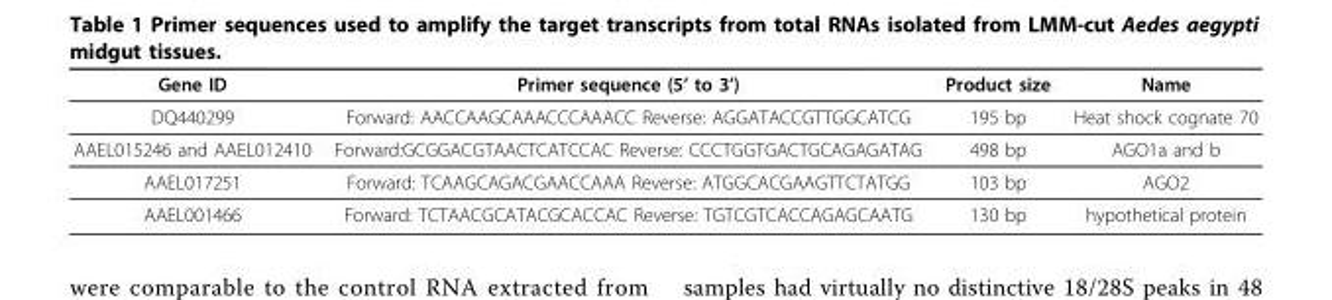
<table><thead><tr><td>Gene ID</td><td>Primer sequence (5’ to 3’)</td><td>Product size</td><td>Name</td></tr></thead><tbody><tr><td>DQ440299</td><td>Forward: AACCAAGCAAACCCAAACC Reverse: AGGATACCGTTGGCATCG</td><td>195 bp</td><td>Heat shock cognate 70</td></tr><tr><td>AAEL015246 and AAEL012410</td><td>Forward:GCGGACGTAACTCATCCAC Reverse: CCCTGGTGACTGCAGAGATAG</td><td>498 bp</td><td>AGO1a and b</td></tr><tr><td>AAEL017251</td><td>Forward: TCAAGCAGACGAACCAAA Reverse: ATGGCACGAAGTTCTATGG</td><td>103 bp</td><td>AGO2</td></tr><tr><td>AAEL001466</td><td>Forward: TCTAACGCATACGCACCAC Reverse: TGTCGTCACCAGAGCAATG</td><td>130 bp</td><td>hypothetical protein</td></tr></tbody></table>